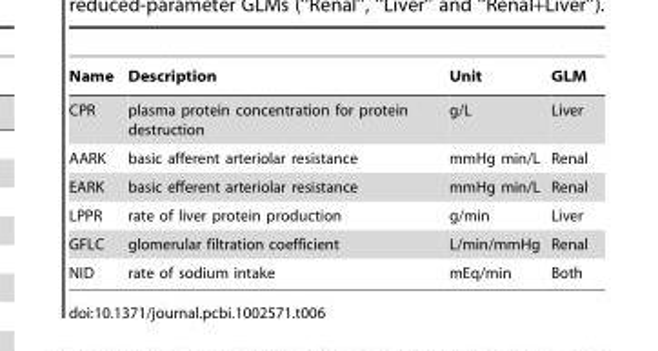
<table><thead><tr><td>Name</td><td>Description</td><td>Unit</td><td>GLM</td></tr></thead><tbody><tr><td>CPR</td><td>plasma protein concentration for protein destruction</td><td>g/L</td><td>Liver</td></tr><tr><td>AARK</td><td>basic afferent arteriolar resistance</td><td>mmHg min/L</td><td>Renal</td></tr><tr><td>EARK</td><td>basic efferent arteriolar resistance</td><td>mmHg min/L</td><td>Renal</td></tr><tr><td>LPPR</td><td>rate of liver protein production</td><td>g/min</td><td>Liver</td></tr><tr><td>GFLC</td><td>glomerular filtration coefficient</td><td>L/min/mmHg</td><td>Renal</td></tr><tr><td>NID</td><td>rate of sodium intake</td><td>mEq/min</td><td>Both</td></tr></tbody></table>